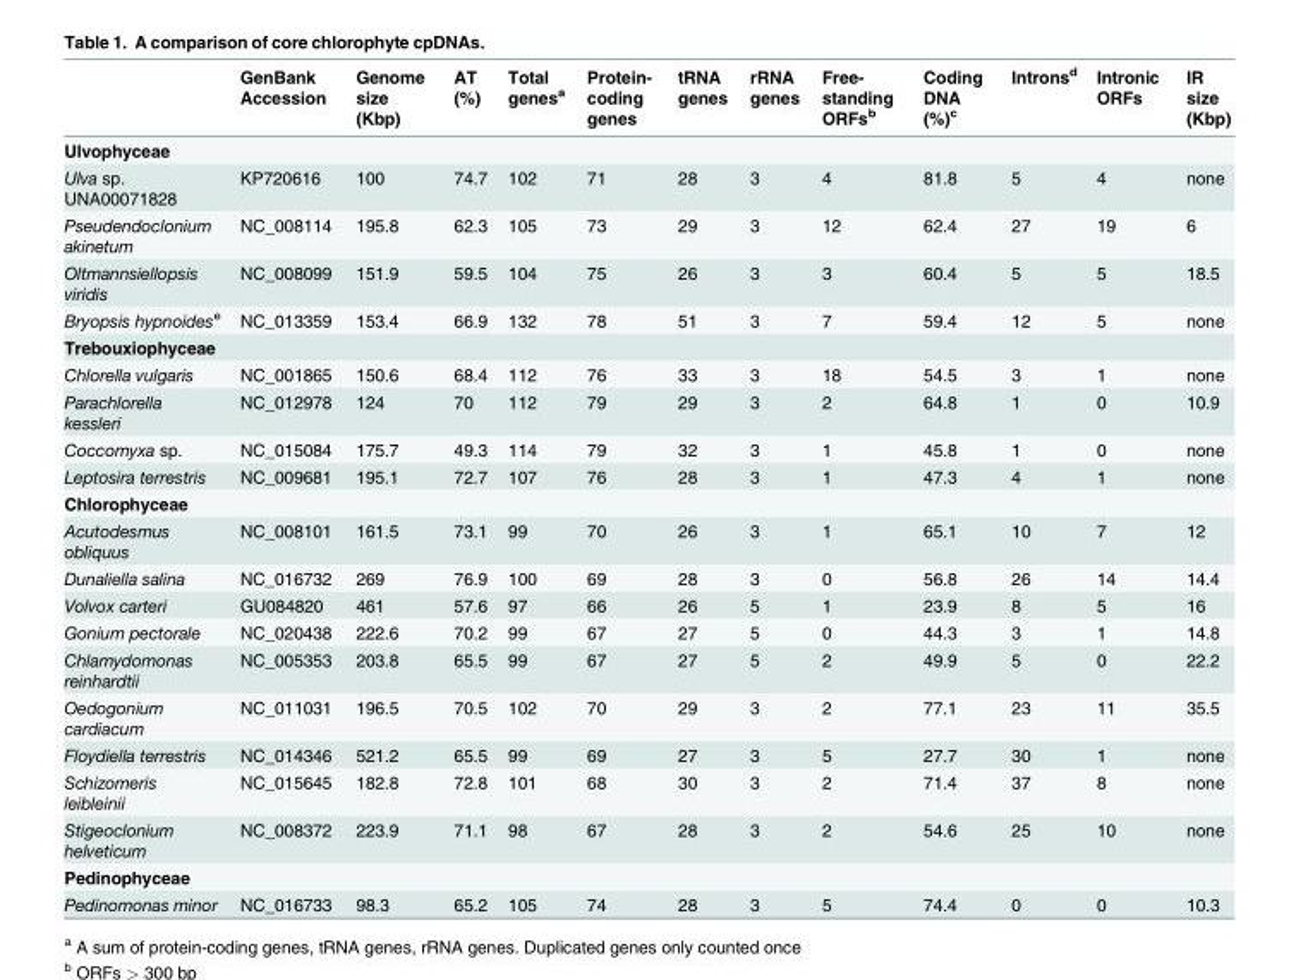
<table><thead><tr><td></td><td>GenBank Accession</td><td>Genome size (Kbp)</td><td>AT (%)</td><td>Total genes<sup>a</sup></td><td>Protein- coding genes</td><td>tRNA genes</td><td>rRNA genes</td><td>Free- standing ORFs<sup>b</sup></td><td>Coding DNA (%)<sup>c</sup></td><td>Introns<sup>d</sup></td><td>Intronic ORFs</td><td>IR size (Kbp)</td></tr></thead><tbody><tr><td colspan="13">Ulvophyceae</td></tr><tr><td>Ulva sp. UNA00071828</td><td>KP720616</td><td>100</td><td>74.7</td><td>102</td><td>71</td><td>28</td><td>3</td><td>4</td><td>81.8</td><td>5</td><td>4</td><td>none</td></tr><tr><td>Pseudendoclonium akinetum</td><td>NC_008114</td><td>195.8</td><td>62.3</td><td>105</td><td>73</td><td>29</td><td>3</td><td>12</td><td>62.4</td><td>27</td><td>19</td><td>6</td></tr><tr><td>Oltmannsiellopsis viridis</td><td>NC_008099</td><td>151.9</td><td>59.5</td><td>104</td><td>75</td><td>26</td><td>3</td><td>3</td><td>60.4</td><td>5</td><td>5</td><td>18.5</td></tr><tr><td>Bryopsis hypnoides<sup>e</sup></td><td>NC_013359</td><td>153.4</td><td>66.9</td><td>132</td><td>78</td><td>51</td><td>3</td><td>7</td><td>59.4</td><td>12</td><td>5</td><td>none</td></tr><tr><td colspan="13">Trebouxiophyceae</td></tr><tr><td>Chlorella vulgaris</td><td>NC_001865</td><td>150.6</td><td>68.4</td><td>112</td><td>76</td><td>33</td><td>3</td><td>18</td><td>54.5</td><td>3</td><td>1</td><td>none</td></tr><tr><td>Parachlorella kessleri</td><td>NC_012978</td><td>124</td><td>70</td><td>112</td><td>79</td><td>29</td><td>3</td><td>2</td><td>64.8</td><td>1</td><td>0</td><td>10.9</td></tr><tr><td>Coccomyxa sp.</td><td>NC_015084</td><td>175.7</td><td>49.3</td><td>114</td><td>79</td><td>32</td><td>3</td><td>1</td><td>45.8</td><td>1</td><td>0</td><td>none</td></tr><tr><td>Leptosira terrestris</td><td>NC_009681</td><td>195.1</td><td>72.7</td><td>107</td><td>76</td><td>28</td><td>3</td><td>1</td><td>47.3</td><td>4</td><td>1</td><td>none</td></tr><tr><td colspan="13">Chlorophyceae</td></tr><tr><td>Acutodesmus obliquus</td><td>NC_008101</td><td>161.5</td><td>73.1</td><td>99</td><td>70</td><td>26</td><td>3</td><td>1</td><td>65.1</td><td>10</td><td>7</td><td>12</td></tr><tr><td>Dunaliella salina</td><td>NC_016732</td><td>269</td><td>76.9</td><td>100</td><td>69</td><td>28</td><td>3</td><td>0</td><td>56.8</td><td>26</td><td>14</td><td>14.4</td></tr><tr><td>Volvox carteri</td><td>GU084820</td><td>461</td><td>57.6</td><td>97</td><td>66</td><td>26</td><td>5</td><td>1</td><td>23.9</td><td>8</td><td>5</td><td>16</td></tr><tr><td>Gonium pectorale</td><td>NC_020438</td><td>222.6</td><td>70.2</td><td>99</td><td>67</td><td>27</td><td>5</td><td>0</td><td>44.3</td><td>3</td><td>1</td><td>14.8</td></tr><tr><td>Chlamydomonas reinhardtii</td><td>NC_005353</td><td>203.8</td><td>65.5</td><td>99</td><td>67</td><td>27</td><td>5</td><td>2</td><td>49.9</td><td>5</td><td>0</td><td>22.2</td></tr><tr><td>Oedogonium cardiacum</td><td>NC_011031</td><td>196.5</td><td>70.5</td><td>102</td><td>70</td><td>29</td><td>3</td><td>2</td><td>77.1</td><td>23</td><td>11</td><td>35.5</td></tr><tr><td>Floydiella terrestris</td><td>NC_014346</td><td>521.2</td><td>65.5</td><td>99</td><td>69</td><td>27</td><td>3</td><td>5</td><td>27.7</td><td>30</td><td>1</td><td>none</td></tr><tr><td>Schizomeris leibleinii</td><td>NC_015645</td><td>182.8</td><td>72.8</td><td>101</td><td>68</td><td>30</td><td>3</td><td>2</td><td>71.4</td><td>37</td><td>8</td><td>none</td></tr><tr><td>Stigeoclonium helveticum</td><td>NC_008372</td><td>223.9</td><td>71.1</td><td>98</td><td>67</td><td>28</td><td>3</td><td>2</td><td>54.6</td><td>25</td><td>10</td><td>none</td></tr><tr><td colspan="13">Pedinophyceae</td></tr><tr><td>Pedinomonas minor</td><td>NC_016733</td><td>98.3</td><td>65.2</td><td>105</td><td>74</td><td>28</td><td>3</td><td>5</td><td>74.4</td><td>0</td><td>0</td><td>10.3</td></tr></tbody></table>